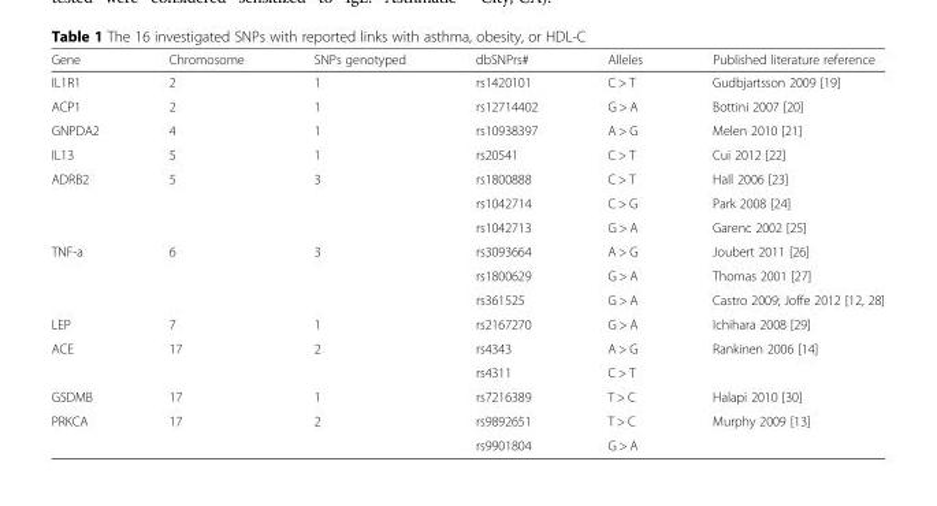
<table><thead><tr><td>Gene</td><td>Chromosome</td><td>SNPs genotyped</td><td>dbSNPrs#</td><td>Alleles</td><td>Published literature reference</td></tr></thead><tbody><tr><td>IL1R1</td><td>2</td><td>1</td><td>rs1420101</td><td>C &gt; T</td><td>Gudbjartsson 2009 [19]</td></tr><tr><td>ACP1</td><td>2</td><td>1</td><td>rs12714402</td><td>G &gt; A</td><td>Bottini 2007 [20]</td></tr><tr><td>GNPDA2</td><td>4</td><td>1</td><td>rs10938397</td><td>A &gt; G</td><td>Melen 2010 [21]</td></tr><tr><td>IL13</td><td>5</td><td>1</td><td>rs20541</td><td>C &gt; T</td><td>Cui 2012 [22]</td></tr><tr><td rowspan="3">ADRB2</td><td rowspan="3">5</td><td rowspan="3">3</td><td>rs1800888</td><td>C &gt; T</td><td>Hall 2006 [23]</td></tr><tr><td>rs1042714</td><td>C &gt; G</td><td>Park 2008 [24]</td></tr><tr><td>rs1042713</td><td>G &gt; A</td><td>Garenc 2002 [25]</td></tr><tr><td rowspan="3">TNF-a</td><td rowspan="3">6</td><td rowspan="3">3</td><td>rs3093664</td><td>A &gt; G</td><td>Joubert 2011 [26]</td></tr><tr><td>rs1800629</td><td>G &gt; A</td><td>Thomas 2001 [27]</td></tr><tr><td>rs361525</td><td>G &gt; A</td><td>Castro 2009; Joffe 2012 [12, 28]</td></tr><tr><td>LEP</td><td>7</td><td>1</td><td>rs2167270</td><td>G &gt; A</td><td>Ichihara 2008 [29]</td></tr><tr><td rowspan="2">ACE</td><td rowspan="2">17</td><td rowspan="2">2</td><td>rs4343</td><td>A &gt; G</td><td rowspan="2">Rankinen 2006 [14]</td></tr><tr><td>rs4311</td><td>C &gt; T</td></tr><tr><td>GSDMB</td><td>17</td><td>1</td><td>rs7216389</td><td>T &gt; C</td><td>Halapi 2010 [30]</td></tr><tr><td rowspan="2">PRKCA</td><td rowspan="2">17</td><td rowspan="2">2</td><td>rs9892651</td><td>T &gt; C</td><td rowspan="2">Murphy 2009 [13]</td></tr><tr><td>rs9901804</td><td>G &gt; A</td></tr></tbody></table>